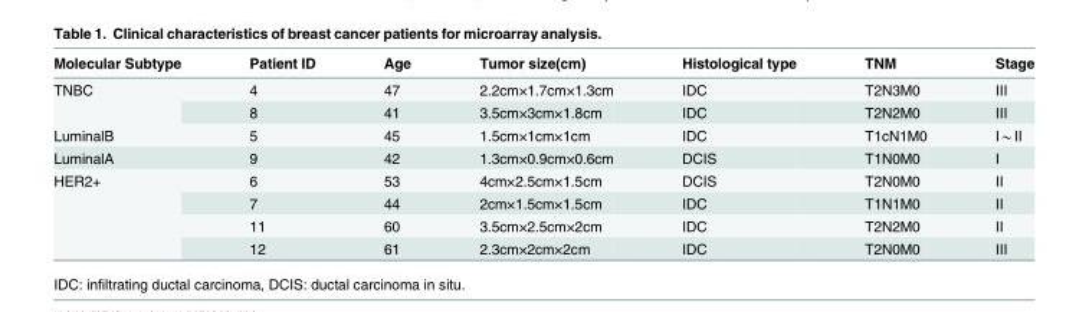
<table><thead><tr><td>Molecular Subtype</td><td>Patient ID</td><td>Age</td><td>Tumor size(cm)</td><td>Histological type</td><td>TNM</td><td>Stage</td></tr></thead><tbody><tr><td rowspan="2">TNBC</td><td>4</td><td>47</td><td>2.2cm×1.7cm×1.3cm</td><td>IDC</td><td>T2N3M0</td><td>Ⅲ</td></tr><tr><td>8</td><td>41</td><td>3.5cm×3cm×1.8cm</td><td>IDC</td><td>T2N2M0</td><td>Ⅲ</td></tr><tr><td>LuminalB</td><td>5</td><td>45</td><td>1.5cm×1cm×1cm</td><td>IDC</td><td>T1cN1M0</td><td>Ⅰ*Ⅱ</td></tr><tr><td>LuminalA</td><td>9</td><td>42</td><td>1.3cm×0.9cm×0.6cm</td><td>DCIS</td><td>T1N0M0</td><td>I</td></tr><tr><td rowspan="4">HER2+</td><td>6</td><td>53</td><td>4cm×2.5cm×1.5cm</td><td>DCIS</td><td>T2N0M0</td><td>Ⅱ</td></tr><tr><td>7</td><td>44</td><td>2cm×1.5cm×1.5cm</td><td>IDC</td><td>T1N1M0</td><td>Ⅱ</td></tr><tr><td>11</td><td>60</td><td>3.5cm×2.5cm×2cm</td><td>IDC</td><td>T2N2M0</td><td>Ⅱ</td></tr><tr><td>12</td><td>61</td><td>2.3cm×2cm×2cm</td><td>IDC</td><td>T2N0M0</td><td>Ⅲ</td></tr></tbody></table>